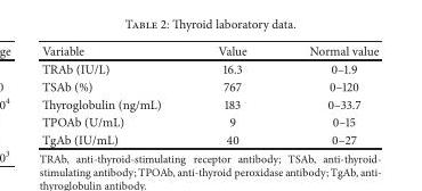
<table><thead><tr><td>Variable</td><td>Value</td><td>Normal value</td></tr></thead><tbody><tr><td>TRAb (IU/L)</td><td>16.3</td><td>0–1.9</td></tr><tr><td>TSAb (%)</td><td>767</td><td>0–120</td></tr><tr><td>Thyroglobulin (ng/mL)</td><td>183</td><td>0–33.7</td></tr><tr><td>TPOAb (U/mL)</td><td>9</td><td>0–15</td></tr><tr><td>TgAb (IU/mL)</td><td>40</td><td>0–27</td></tr></tbody></table>